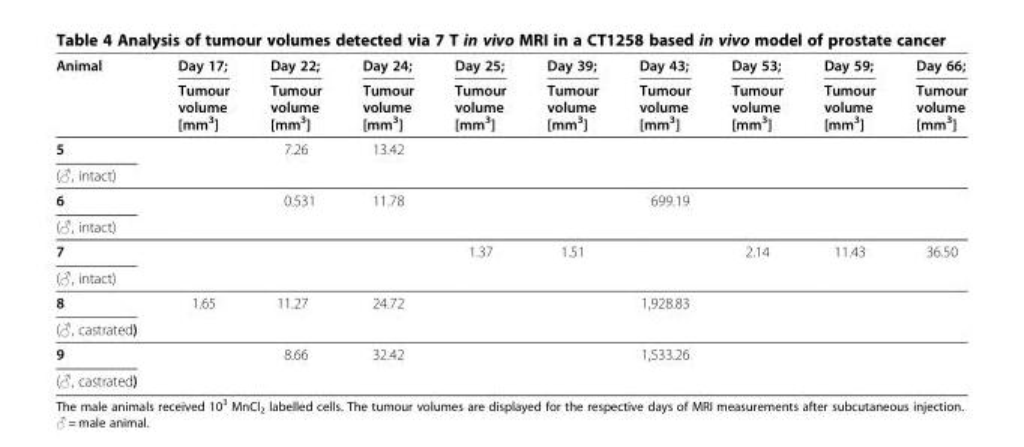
<table><thead><tr><td rowspan="2">Animal</td><td rowspan="2">Day 17; Tumour volume [mm<sup>3</sup>]</td><td rowspan="2">Day 22; Tumour volume [mm<sup>3</sup>]</td><td rowspan="2">Day 24; Tumour volume [mm<sup>3</sup>]</td><td rowspan="2">Day 25; Tumour volume [mm<sup>3</sup>]</td><td rowspan="2">Day 39; Tumour volume [mm<sup>3</sup>]</td><td rowspan="2">Day 43; Tumour volume [mm<sup>3</sup>]</td><td rowspan="2">Day 53; Tumour volume [mm<sup>3</sup>]</td><td rowspan="2">Day 59; Tumour volume [mm<sup>3</sup>]</td><td rowspan="2">Day 66; Tumour volume [mm<sup>3</sup>]</td></tr><tr></tr></thead><tbody><tr><td>5</td><td></td><td>7.26</td><td>13.42</td><td></td><td></td><td></td><td></td><td></td><td></td></tr><tr><td colspan="10">(♂, intact)</td></tr><tr><td>6</td><td></td><td>0.531</td><td>11.78</td><td></td><td></td><td>699.19</td><td></td><td></td><td></td></tr><tr><td colspan="10">(♂, intact)</td></tr><tr><td>7</td><td></td><td></td><td></td><td>1.37</td><td>1.51</td><td></td><td>2.14</td><td>11.43</td><td>36.50</td></tr><tr><td colspan="10">(♂, intact)</td></tr><tr><td>8</td><td>1.65</td><td>11.27</td><td>24.72</td><td></td><td></td><td>1,928.83</td><td></td><td></td><td></td></tr><tr><td colspan="10">(♂, castrated)</td></tr><tr><td>9</td><td></td><td>8.66</td><td>32.42</td><td></td><td></td><td>1,533.26</td><td></td><td></td><td></td></tr><tr><td>(♂, castrated)</td><td></td><td></td><td></td><td></td><td></td><td></td><td></td><td></td><td></td></tr></tbody></table>